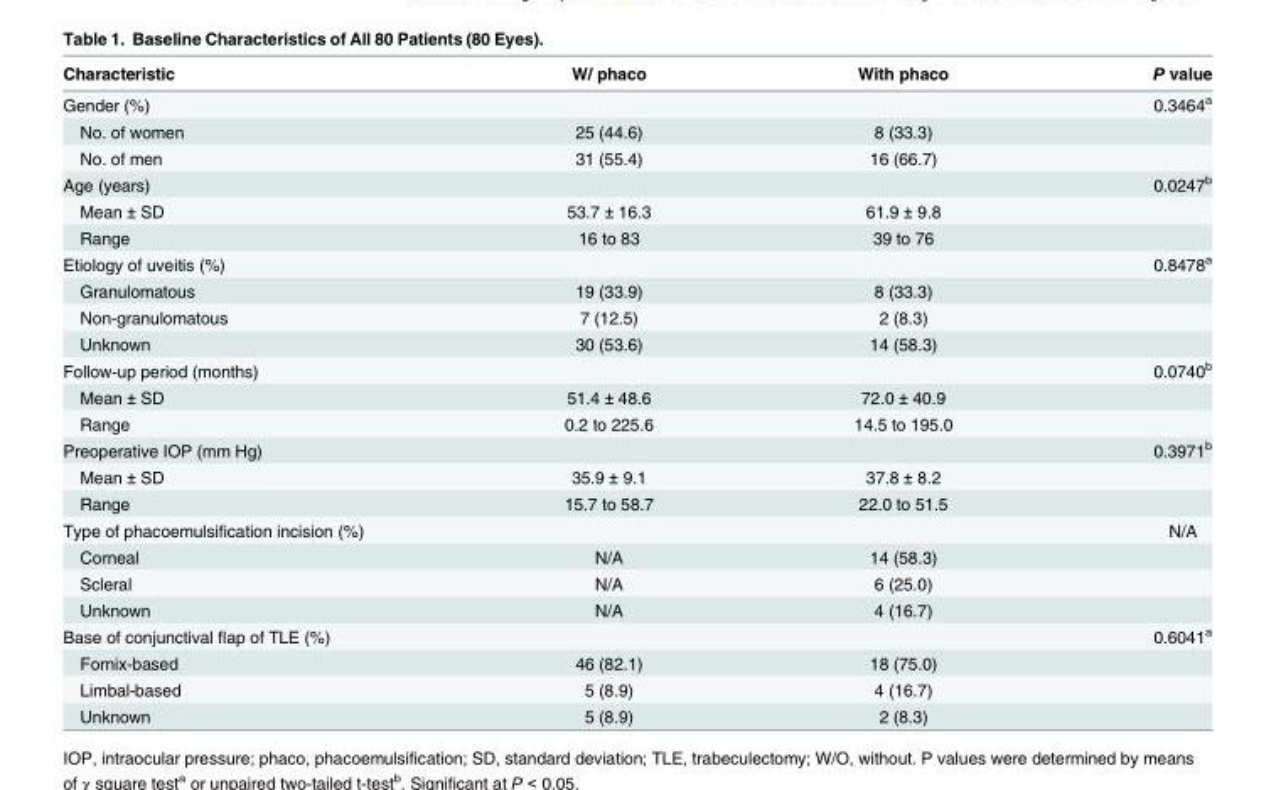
<table><thead><tr><td>Characteristic</td><td>W/ phaco</td><td>With phaco</td><td>P value</td></tr></thead><tbody><tr><td>Gender (%)</td><td></td><td></td><td>0.3464<sup>a</sup></td></tr><tr><td>No. of women</td><td>25 (44.6)</td><td>8 (33.3)</td><td></td></tr><tr><td>No. of men</td><td>31 (55.4)</td><td>16 (66.7)</td><td></td></tr><tr><td>Age (years)</td><td></td><td></td><td>0.0247<sup>b</sup></td></tr><tr><td>Mean ± SD</td><td>53.7 ± 16.3</td><td>61.9 ± 9.8</td><td></td></tr><tr><td>Range</td><td>16 to 83</td><td>39 to 76</td><td></td></tr><tr><td>Etiology of uveitis (%)</td><td></td><td></td><td>0.8478<sup>a</sup></td></tr><tr><td>Granulomatous</td><td>19 (33.9)</td><td>8 (33.3)</td><td></td></tr><tr><td>Non-granulomatous</td><td>7 (12.5)</td><td>2 (8.3)</td><td></td></tr><tr><td>Unknown</td><td>30 (53.6)</td><td>14 (58.3)</td><td></td></tr><tr><td>Follow-up period (months)</td><td></td><td></td><td>0.0740<sup>b</sup></td></tr><tr><td>Mean ± SD</td><td>51.4 ± 48.6</td><td>72.0 ± 40.9</td><td></td></tr><tr><td>Range</td><td>0.2 to 225.6</td><td>14.5 to 195.0</td><td></td></tr><tr><td>Preoperative IOP (mm Hg)</td><td></td><td></td><td>0.3971<sup>b</sup></td></tr><tr><td>Mean ± SD</td><td>35.9 ± 9.1</td><td>37.8 ± 8.2</td><td></td></tr><tr><td>Range</td><td>15.7 to 58.7</td><td>22.0 to 51.5</td><td></td></tr><tr><td>Type of phacoemulsification incision (%)</td><td></td><td></td><td>N/A</td></tr><tr><td>Corneal</td><td>N/A</td><td>14 (58.3)</td><td></td></tr><tr><td>Scleral</td><td>N/A</td><td>6 (25.0)</td><td></td></tr><tr><td>Unknown</td><td>N/A</td><td>4 (16.7)</td><td></td></tr><tr><td>Base of conjunctival flap of TLE (%)</td><td></td><td></td><td>0.6041<sup>a</sup></td></tr><tr><td>Fornix-based</td><td>46 (82.1)</td><td>18 (75.0)</td><td></td></tr><tr><td>Limbal-based</td><td>5 (8.9)</td><td>4 (16.7)</td><td></td></tr><tr><td>Unknown</td><td>5 (8.9)</td><td>2 (8.3)</td><td></td></tr></tbody></table>